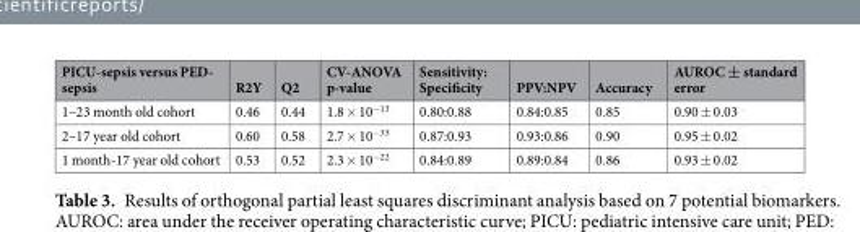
<table><thead><tr><td>PICU-sepsis versus PED- sepsis</td><td>R2Y</td><td>Q2</td><td>CV-ANOVA p-value</td><td>Sensitivity: Specificity</td><td>PPV:NPV</td><td>Accuracy</td><td>AUROC ± standard error</td></tr></thead><tbody><tr><td>1–23 month old cohort</td><td>0.46</td><td>0.44</td><td>1.8 × 10<sup>−13</sup></td><td>0.80:0.88</td><td>0.84:0.85</td><td>0.85</td><td>0.90 ± 0.03</td></tr><tr><td>2–17 year old cohort</td><td>0.60</td><td>0.58</td><td>2.7 × 10<sup>−33</sup></td><td>0.87:0.93</td><td>0.93:0.86</td><td>0.90</td><td>0.95 ± 0.02</td></tr><tr><td>1 month-17 year old cohort</td><td>0.53</td><td>0.52</td><td>2.3 × 10<sup>−22</sup></td><td>0.84:0.89</td><td>0.89:0.84</td><td>0.86</td><td>0.93 ± 0.02</td></tr></tbody></table>